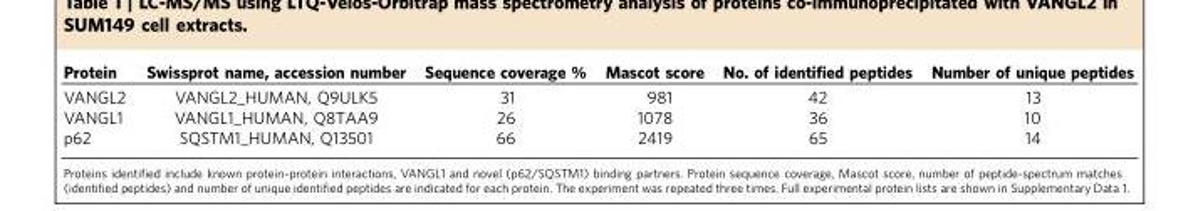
<table><thead><tr><td>Protein</td><td>Swissprot name, accession number</td><td>Sequence coverage %</td><td>Mascot score</td><td>No. of identified peptides</td><td>Number of unique peptides</td></tr></thead><tbody><tr><td>VANGL2</td><td>VANGL2_HUMAN, Q9ULK5</td><td>31</td><td>981</td><td>42</td><td>13</td></tr><tr><td>VANGL1</td><td>VANGL1_HUMAN, Q8TAA9</td><td>26</td><td>1078</td><td>36</td><td>10</td></tr><tr><td>p62</td><td>SQSTM1_HUMAN, Q13501</td><td>66</td><td>2419</td><td>65</td><td>14</td></tr></tbody></table>